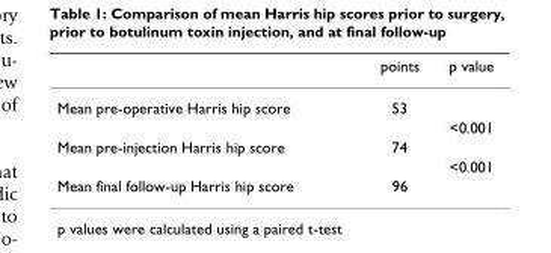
<table><thead><tr><td></td><td>points</td><td>p value</td></tr></thead><tbody><tr><td rowspan="2">Mean pre-operative Harris hip score</td><td>53</td><td></td></tr><tr><td></td><td>&lt;0.001</td></tr><tr><td rowspan="2">Mean pre-injection Harris hip score</td><td>74</td><td></td></tr><tr><td></td><td>&lt;0.001</td></tr><tr><td>Mean final follow-up Harris hip score</td><td>96</td><td></td></tr></tbody></table>